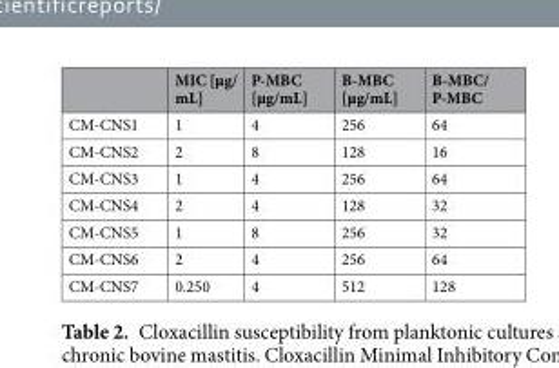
<table><thead><tr><td></td><td>MIC [µg/ mL]</td><td>P-MBC [µg/mL]</td><td>B-MBC [µg/mL]</td><td>B-MBC/ P-MBC</td></tr></thead><tbody><tr><td>CM-CNS1</td><td>1</td><td>4</td><td>256</td><td>64</td></tr><tr><td>CM-CNS2</td><td>2</td><td>8</td><td>128</td><td>16</td></tr><tr><td>CM-CNS3</td><td>1</td><td>4</td><td>256</td><td>64</td></tr><tr><td>CM-CNS4</td><td>2</td><td>4</td><td>128</td><td>32</td></tr><tr><td>CM-CNS5</td><td>1</td><td>8</td><td>256</td><td>32</td></tr><tr><td>CM-CNS6</td><td>2</td><td>4</td><td>256</td><td>64</td></tr><tr><td>CM-CNS7</td><td>0.250</td><td>4</td><td>512</td><td>128</td></tr></tbody></table>